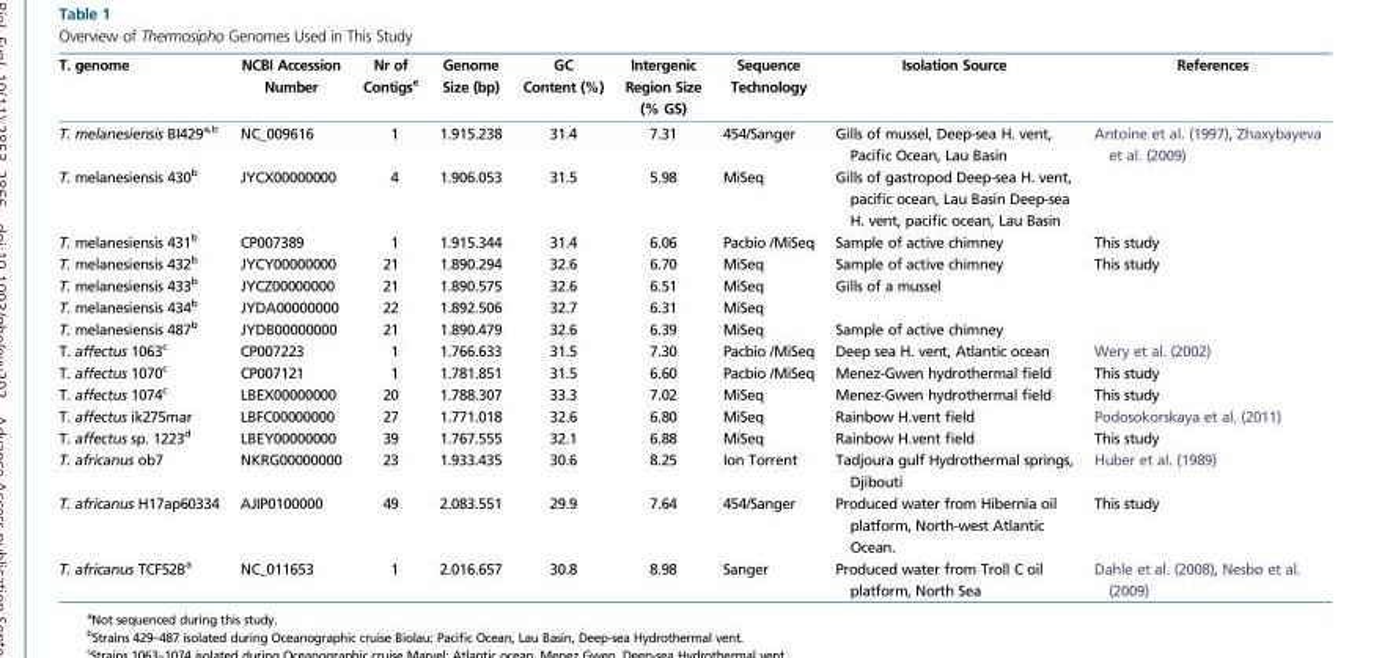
<table><thead><tr><td>T. genome</td><td>NCBI Accession Number</td><td>Nr of Contigs<sup>e</sup></td><td>Genome Size (bp)</td><td>GC Content (%)</td><td>Intergenic Region Size (% GS)</td><td>Sequence Technology</td><td>Isolation Source</td><td>References</td></tr></thead><tbody><tr><td>T. melanesiensis BI429<sup>a,b</sup></td><td>NC_009616</td><td>1</td><td>1.915.238</td><td>31.4</td><td>7.31</td><td>454/Sanger</td><td>Gills of mussel, Deep-sea H. vent, Pacific Ocean, Lau Basin</td><td>Antoine et al. (1997), Zhaxybayeva et al. (2009)</td></tr><tr><td>T. melanesiensis 430<sup>b</sup></td><td>JYCX00000000</td><td>4</td><td>1.906.053</td><td>31.5</td><td>5.98</td><td>MiSeq</td><td>Gills of gastropod Deep-sea H. vent, pacific ocean, Lau Basin Deep-sea H. vent, pacific ocean, Lau Basin</td><td></td></tr><tr><td>T. melanesiensis 431<sup>b</sup></td><td>CP007389</td><td>1</td><td>1.915.344</td><td>31.4</td><td>6.06</td><td>Pacbio /MiSeq</td><td>Sample of active chimney</td><td>This study</td></tr><tr><td>T. melanesiensis 432<sup>b</sup></td><td>JYCY00000000</td><td>21</td><td>1.890.294</td><td>32.6</td><td>6.70</td><td>MiSeq</td><td>Sample of active chimney</td><td>This study</td></tr><tr><td>T. melanesiensis 433<sup>b</sup></td><td>JYCZ00000000</td><td>21</td><td>1.890.575</td><td>32.6</td><td>6.51</td><td>MiSeq</td><td>Gills of a mussel</td><td></td></tr><tr><td>T. melanesiensis 434<sup>b</sup></td><td>JYDA00000000</td><td>22</td><td>1.892.506</td><td>32.7</td><td>6.31</td><td>MiSeq</td><td></td><td></td></tr><tr><td>T. melanesiensis 487<sup>b</sup></td><td>JYDB00000000</td><td>21</td><td>1.890.479</td><td>32.6</td><td>6.39</td><td>MiSeq</td><td>Sample of active chimney</td><td></td></tr><tr><td>T. affectus 1063<sup>c</sup></td><td>CP007223</td><td>1</td><td>1.766.633</td><td>31.5</td><td>7.30</td><td>Pacbio /MiSeq</td><td>Deep sea H. vent, Atlantic ocean</td><td>Wery et al. (2002)</td></tr><tr><td>T. affectus 1070<sup>c</sup></td><td>CP007121</td><td>1</td><td>1.781.851</td><td>31.5</td><td>6.60</td><td>Pacbio /MiSeq</td><td>Menez-Gwen hydrothermal field</td><td>This study</td></tr><tr><td>T. affectus 1074<sup>c</sup></td><td>LBEX00000000</td><td>20</td><td>1.788.307</td><td>33.3</td><td>7.02</td><td>MiSeq</td><td>Menez-Gwen hydrothermal field</td><td>This study</td></tr><tr><td>T. affectus ik275mar</td><td>LBFC00000000</td><td>27</td><td>1.771.018</td><td>32.6</td><td>6.80</td><td>MiSeq</td><td>Rainbow H.vent field</td><td>Podosokorskaya et al. (2011)</td></tr><tr><td>T. affectus sp. 1223<sup>d</sup></td><td>LBEY00000000</td><td>39</td><td>1.767.555</td><td>32.1</td><td>6.88</td><td>MiSeq</td><td>Rainbow H.vent field</td><td>This study</td></tr><tr><td>T. africanus ob7</td><td>NKRG00000000</td><td>23</td><td>1.933.435</td><td>30.6</td><td>8.25</td><td>Ion Torrent</td><td>Tadjoura gulf Hydrothermal springs, Djibouti</td><td>Huber et al. (1989)</td></tr><tr><td>T. africanus H17ap60334</td><td>AJIP0100000</td><td>49</td><td>2.083.551</td><td>29.9</td><td>7.64</td><td>454/Sanger</td><td>Produced water from Hibernia oil platform, North-west Atlantic Ocean.</td><td>This study</td></tr><tr><td>T. africanus TCF52B<sup>a</sup></td><td>NC_011653</td><td>1</td><td>2.016.657</td><td>30.8</td><td>8.98</td><td>Sanger</td><td>Produced water from Troll C oil platform, North Sea</td><td>Dahle et al. (2008), Nesbø et al. (2009)</td></tr></tbody></table>